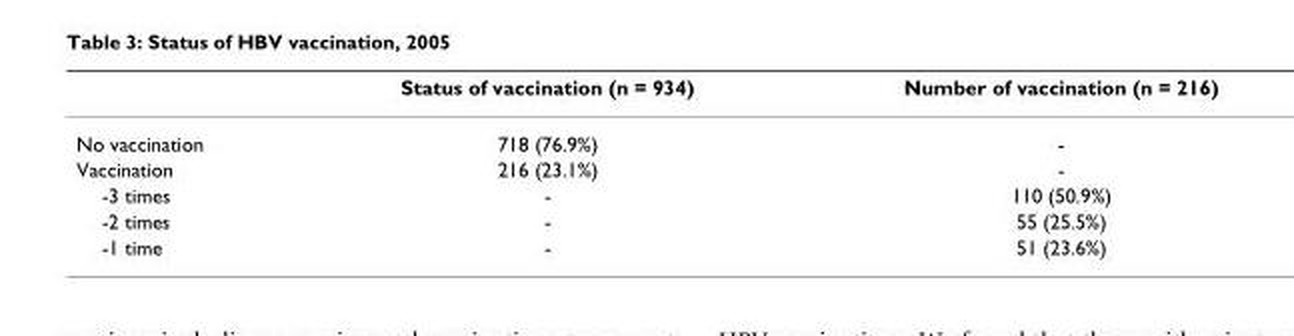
<table><thead><tr><td></td><td>Status of vaccination (n = 934)</td><td>Number of vaccination (n = 216)</td></tr></thead><tbody><tr><td>No vaccination</td><td>718 (76.9%)</td><td>-</td></tr><tr><td>Vaccination</td><td>216 (23.1%)</td><td>-</td></tr><tr><td>-3 times</td><td>-</td><td>110 (50.9%)</td></tr><tr><td>-2 times</td><td>-</td><td>55 (25.5%)</td></tr><tr><td>-1 time</td><td>-</td><td>51 (23.6%)</td></tr></tbody></table>